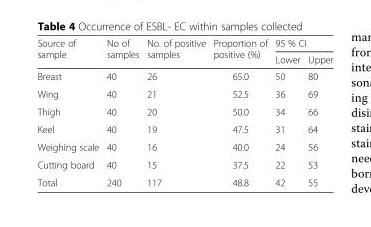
<table><thead><tr><td rowspan="2">Source of sample</td><td rowspan="2">No of samples</td><td rowspan="2">No. of positive samples</td><td rowspan="2">Proportion of positive (%)</td><td colspan="2">95 % CI</td></tr><tr><td>Lower</td><td>Upper</td></tr></thead><tbody><tr><td>Breast</td><td>40</td><td>26</td><td>65.0</td><td>50</td><td>80</td></tr><tr><td>Wing</td><td>40</td><td>21</td><td>52.5</td><td>36</td><td>69</td></tr><tr><td>Thigh</td><td>40</td><td>20</td><td>50.0</td><td>34</td><td>66</td></tr><tr><td>Keel</td><td>40</td><td>19</td><td>47.5</td><td>31</td><td>64</td></tr><tr><td>Weighing scale</td><td>40</td><td>16</td><td>40.0</td><td>24</td><td>56</td></tr><tr><td>Cutting board</td><td>40</td><td>15</td><td>37.5</td><td>22</td><td>53</td></tr><tr><td>Total</td><td>240</td><td>117</td><td>48.8</td><td>42</td><td>55</td></tr></tbody></table>